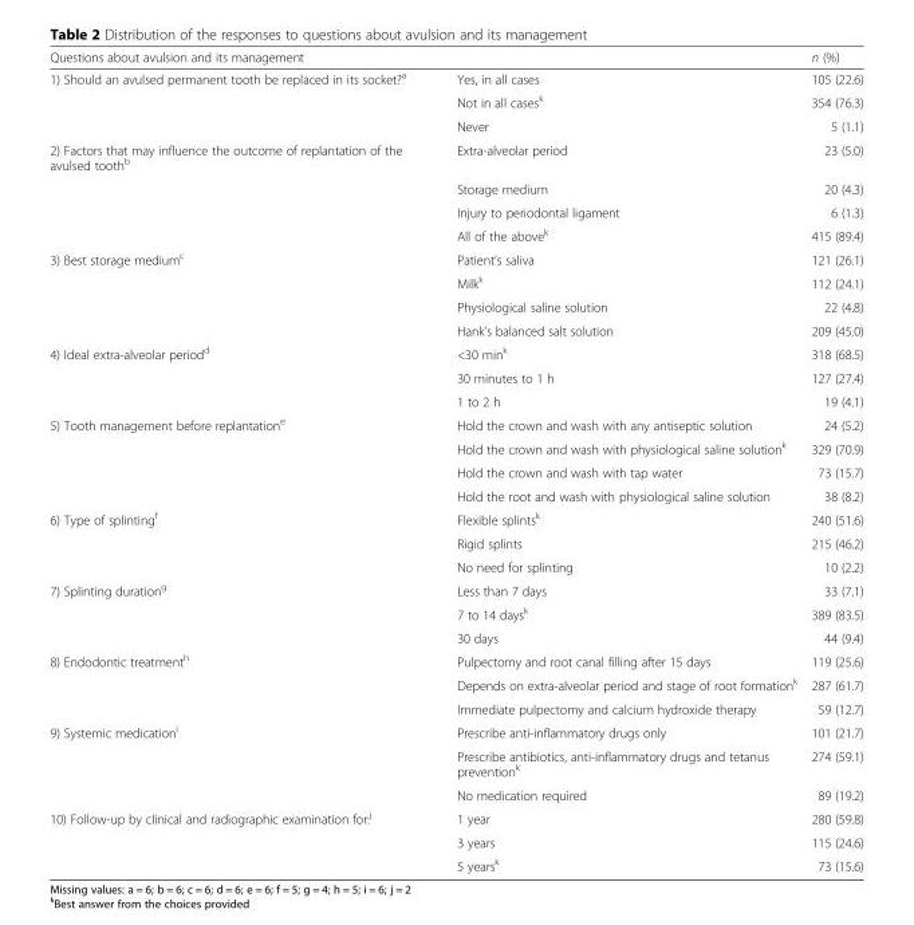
<table><thead><tr><td>Questions about avulsion and its management</td><td></td><td>n (%)</td></tr></thead><tbody><tr><td rowspan="3">1) Should an avulsed permanent tooth be replaced in its socket?<sup>a</sup></td><td>Yes, in all cases</td><td>105 (22.6)</td></tr><tr><td>Not in all cases<sup>k</sup></td><td>354 (76.3)</td></tr><tr><td>Never</td><td>5 (1.1)</td></tr><tr><td rowspan="4">2) Factors that may influence the outcome of replantation of the avulsed tooth<sup>b</sup></td><td>Extra-alveolar period</td><td>23 (5.0)</td></tr><tr><td>Storage medium</td><td>20 (4.3)</td></tr><tr><td>Injury to periodontal ligament</td><td>6 (1.3)</td></tr><tr><td>All of the above<sup>k</sup></td><td>415 (89.4)</td></tr><tr><td rowspan="4">3) Best storage medium<sup>c</sup></td><td>Patient’s saliva</td><td>121 (26.1)</td></tr><tr><td>Milk<sup>k</sup></td><td>112 (24.1)</td></tr><tr><td>Physiological saline solution</td><td>22 (4.8)</td></tr><tr><td>Hank’s balanced salt solution</td><td>209 (45.0)</td></tr><tr><td rowspan="3">4) Ideal extra-alveolar period<sup>d</sup></td><td>&lt;30 min<sup>k</sup></td><td>318 (68.5)</td></tr><tr><td>30 minutes to 1 h</td><td>127 (27.4)</td></tr><tr><td>1 to 2 h</td><td>19 (4.1)</td></tr><tr><td rowspan="4">5) Tooth management before replantation<sup>e</sup></td><td>Hold the crown and wash with any antiseptic solution</td><td>24 (5.2)</td></tr><tr><td>Hold the crown and wash with physiological saline solution<sup>k</sup></td><td>329 (70.9)</td></tr><tr><td>Hold the crown and wash with tap water</td><td>73 (15.7)</td></tr><tr><td>Hold the root and wash with physiological saline solution</td><td>38 (8.2)</td></tr><tr><td rowspan="3">6) Type of splinting<sup>f</sup></td><td>Flexible splints<sup>k</sup></td><td>240 (51.6)</td></tr><tr><td>Rigid splints</td><td>215 (46.2)</td></tr><tr><td>No need for splinting</td><td>10 (2.2)</td></tr><tr><td rowspan="3">7) Splinting duration<sup>g</sup></td><td>Less than 7 days</td><td>33 (7.1)</td></tr><tr><td>7 to 14 days<sup>k</sup></td><td>389 (83.5)</td></tr><tr><td>30 days</td><td>44 (9.4)</td></tr><tr><td rowspan="3">8) Endodontic treatment<sup>h</sup></td><td>Pulpectomy and root canal filling after 15 days</td><td>119 (25.6)</td></tr><tr><td>Depends on extra-alveolar period and stage of root formation<sup>k</sup></td><td>287 (61.7)</td></tr><tr><td>Immediate pulpectomy and calcium hydroxide therapy</td><td>59 (12.7)</td></tr><tr><td rowspan="3">9) Systemic medication<sup>i</sup></td><td>Prescribe anti-inflammatory drugs only</td><td>101 (21.7)</td></tr><tr><td>Prescribe antibiotics, anti-inflammatory drugs and tetanus prevention<sup>k</sup></td><td>274 (59.1)</td></tr><tr><td>No medication required</td><td>89 (19.2)</td></tr><tr><td rowspan="3">10) Follow-up by clinical and radiographic examination for:<sup>j</sup></td><td>1 year</td><td>280 (59.8)</td></tr><tr><td>3 years</td><td>115 (24.6)</td></tr><tr><td>5 years<sup>k</sup></td><td>73 (15.6)</td></tr></tbody></table>